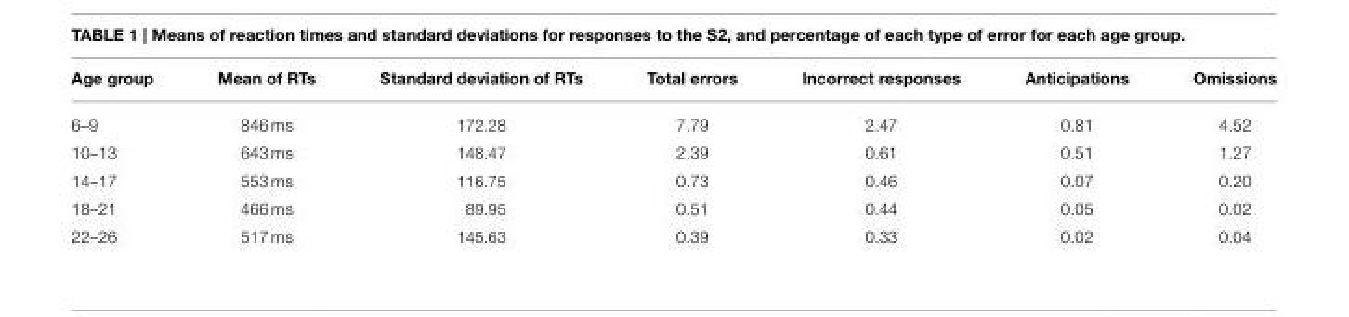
<table><thead><tr><td>Age group</td><td>Mean of RTs</td><td>Standard deviation of RTs</td><td>Total errors</td><td>Incorrect responses</td><td>Anticipations</td><td>Omissions</td></tr></thead><tbody><tr><td>6–9</td><td>846 ms</td><td>172.28</td><td>7.79</td><td>2.47</td><td>0.81</td><td>4.52</td></tr><tr><td>10–13</td><td>643 ms</td><td>148.47</td><td>2.39</td><td>0.61</td><td>0.51</td><td>1.27</td></tr><tr><td>14–17</td><td>553 ms</td><td>116.75</td><td>0.73</td><td>0.46</td><td>0.07</td><td>0.20</td></tr><tr><td>18–21</td><td>466 ms</td><td>89.95</td><td>0.51</td><td>0.44</td><td>0.05</td><td>0.02</td></tr><tr><td>22–26</td><td>517 ms</td><td>145.63</td><td>0.39</td><td>0.33</td><td>0.02</td><td>0.04</td></tr></tbody></table>